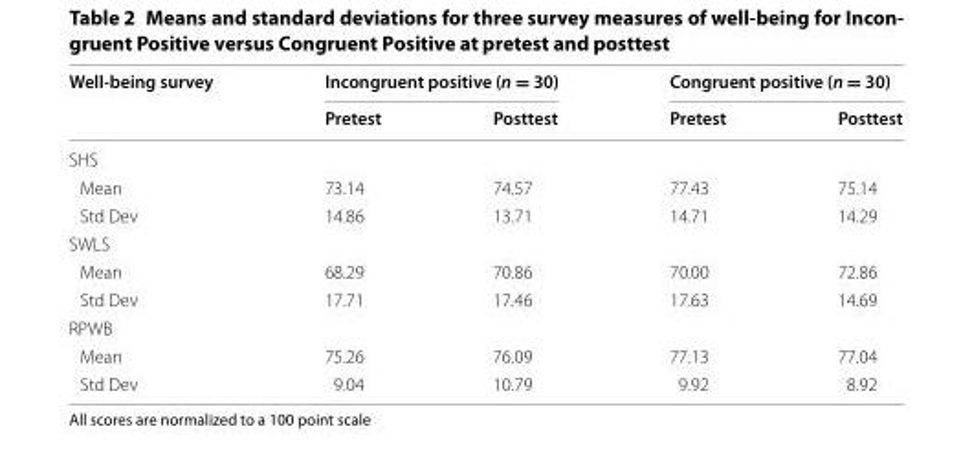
<table><thead><tr><td rowspan="2">Well-being survey</td><td colspan="2">Incongruent positive (n = 30)</td><td colspan="2">Congruent positive (n = 30)</td></tr><tr><td>Pretest</td><td>Posttest</td><td>Pretest</td><td>Posttest</td></tr></thead><tbody><tr><td colspan="5">SHS</td></tr><tr><td>Mean</td><td>73.14</td><td>74.57</td><td>77.43</td><td>75.14</td></tr><tr><td>Std Dev</td><td>14.86</td><td>13.71</td><td>14.71</td><td>14.29</td></tr><tr><td colspan="5">SWLS</td></tr><tr><td>Mean</td><td>68.29</td><td>70.86</td><td>70.00</td><td>72.86</td></tr><tr><td>Std Dev</td><td>17.71</td><td>17.46</td><td>17.63</td><td>14.69</td></tr><tr><td colspan="5">RPWB</td></tr><tr><td>Mean</td><td>75.26</td><td>76.09</td><td>77.13</td><td>77.04</td></tr><tr><td>Std Dev</td><td>9.04</td><td>10.79</td><td>9.92</td><td>8.92</td></tr></tbody></table>